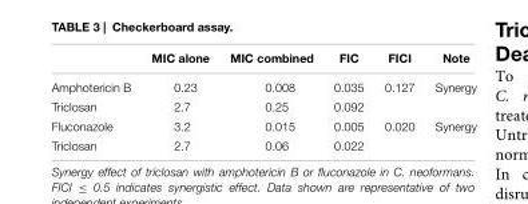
<table><thead><tr><td></td><td>MIC alone</td><td>MIC combined</td><td>FIC</td><td>FICI</td><td>Note</td></tr></thead><tbody><tr><td>Amphotericin B</td><td>0.23</td><td>0.008</td><td>0.035</td><td>0.127</td><td>Synergy</td></tr><tr><td>Triclosan</td><td>2.7</td><td>0.25</td><td>0.092</td><td></td><td></td></tr><tr><td>Fluconazole</td><td>3.2</td><td>0.015</td><td>0.005</td><td>0.020</td><td>Synergy</td></tr><tr><td>Triclosan</td><td>2.7</td><td>0.06</td><td>0.022</td><td></td><td></td></tr></tbody></table>